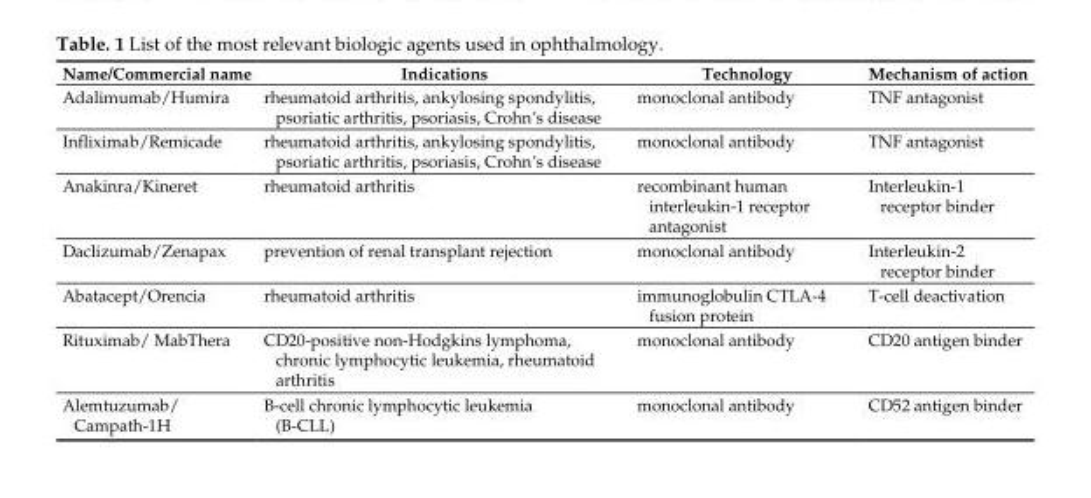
<table><thead><tr><td>Name/Commercial name</td><td>Indications</td><td>Technology</td><td>Mechanism of action</td></tr></thead><tbody><tr><td>Adalimumab/Humira</td><td>rheumatoid arthritis, ankylosing spondylitis, psoriatic arthritis, psoriasis, Crohn’s disease</td><td>monoclonal antibody</td><td>TNF antagonist</td></tr><tr><td>Infliximab/Remicade</td><td>rheumatoid arthritis, ankylosing spondylitis, psoriatic arthritis, psoriasis, Crohn’s disease</td><td>monoclonal antibody</td><td>TNF antagonist</td></tr><tr><td>Anakinra/Kineret</td><td>rheumatoid arthritis</td><td>recombinant human interleukin-1 receptor antagonist</td><td>Interleukin-1 receptor binder</td></tr><tr><td>Daclizumab/Zenapax</td><td>prevention of renal transplant rejection</td><td>monoclonal antibody</td><td>Interleukin-2 receptor binder</td></tr><tr><td>Abatacept/Orencia</td><td>rheumatoid arthritis</td><td>immunoglobulin CTLA-4 fusion protein</td><td>T-cell deactivation</td></tr><tr><td>Rituximab/ MabThera</td><td>CD20-positive non-Hodgkins lymphoma, chronic lymphocytic leukemia, rheumatoid arthritis</td><td>monoclonal antibody</td><td>CD20 antigen binder</td></tr><tr><td>Alemtuzumab/ Campath-1H</td><td>B-cell chronic lymphocytic leukemia (B-CLL)</td><td>monoclonal antibody</td><td>CD52 antigen binder</td></tr></tbody></table>